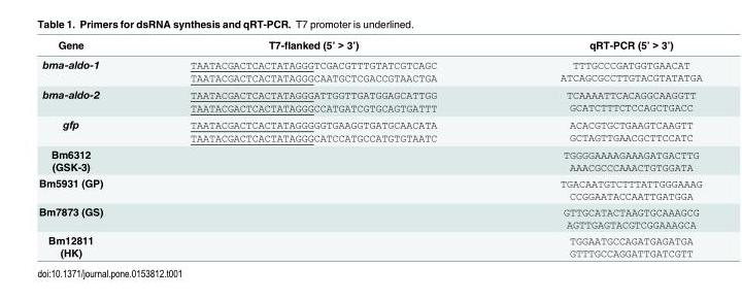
<table><thead><tr><td>Gene</td><td>T7-flanked (5’ &gt; 3’)</td><td>qRT-PCR (5’ &gt; 3’)</td></tr></thead><tbody><tr><td>bma-aldo-1</td><td>TAATACGACTCACTATAGGGTCGACGTTTGTATCGTCAGC TAATACGACTCACTATAGGGCAATGCTCGACCGTAACTGA</td><td>TTTGCCCGATGGTGAACAT ATCAGCGCCTTGTACGTATATGA</td></tr><tr><td>bma-aldo-2</td><td>TAATACGACTCACTATAGGGATTGGTTGATGGAGCATTGG TAATACGACTCACTATAGGGCCATGATCGTGCAGTGATTT</td><td>TCAAAATTCACAGGCAAGGTT GCATCTTTCTCCAGCTGACC</td></tr><tr><td>gfp</td><td>TAATACGACTCACTATAGGGGGTGAAGGTGATGCAACATA TAATACGACTCACTATAGGGCATCCATGCCATGTGTAATC</td><td>ACACGTGCTGAAGTCAAGTT GCTAGTTGAACGCTTCCATC</td></tr><tr><td>Bm6312 (GSK-3)</td><td></td><td>TGGGGAAAAGAAAGATGACTTG AAACGCCCAAACTGTGGATA</td></tr><tr><td>Bm5931 (GP)</td><td></td><td>TGACAATGTCTTTATTGGGAAAG CCGGAATACCAATTGATGGA</td></tr><tr><td>Bm7873 (GS)</td><td></td><td>GTTGCATACTAAGTGCAAAGCG AGTTGAGTACGTCGGAAAGCA</td></tr><tr><td>Bm12811 (HK)</td><td></td><td>TGGAATGCCAGATGAGATGA GTTTGCCAGGATTGATCGTT</td></tr></tbody></table>